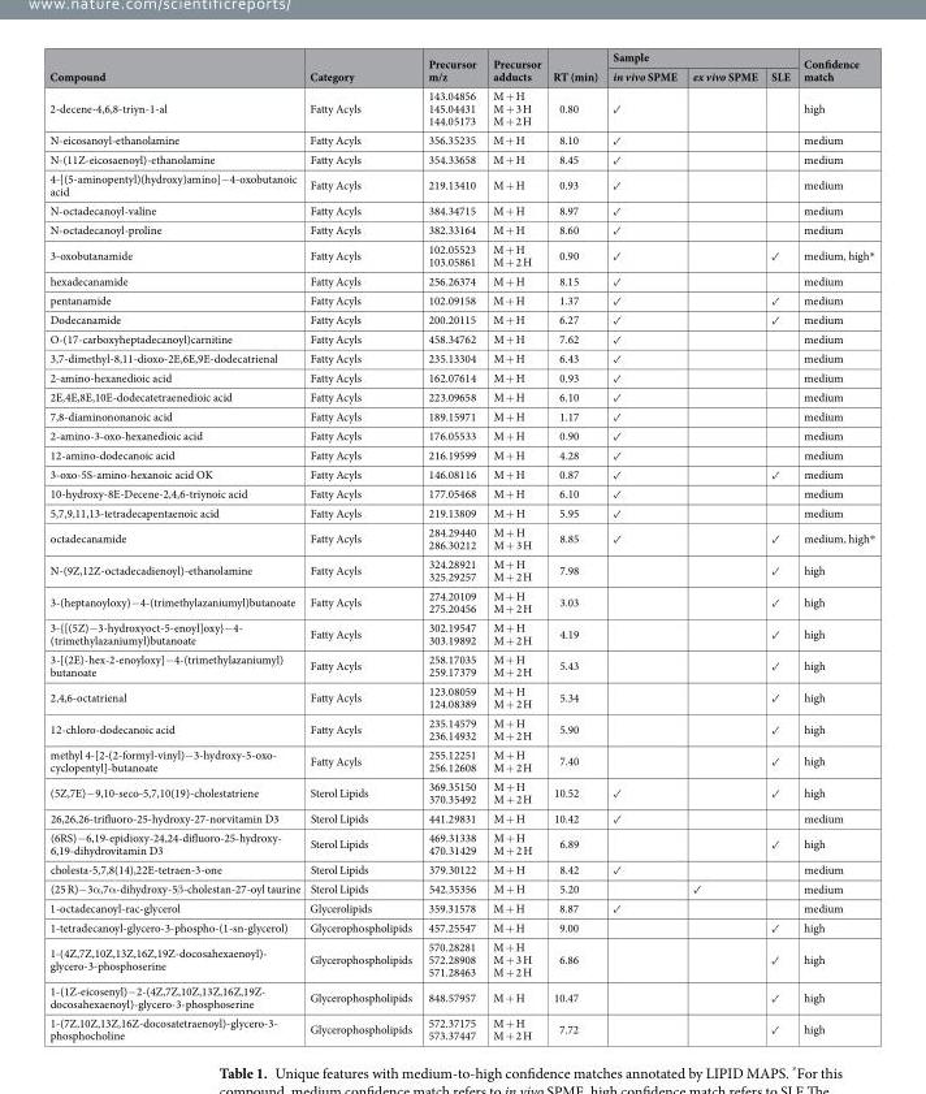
<table><thead><tr><td rowspan="2">Compound</td><td rowspan="2">Category</td><td rowspan="2">Precursor m/z</td><td rowspan="2">Precursor adducts</td><td rowspan="2">RT (min)</td><td colspan="3">Sample</td><td rowspan="2">Confidence match</td></tr><tr><td>in vivo SPME</td><td>ex vivo SPME</td><td>SLE</td></tr></thead><tbody><tr><td>2-decene-4,6,8-triyn-1-al</td><td>Fatty Acyls</td><td>143.04856 145.04431 144.05173</td><td>M + H M + 3 H M + 2 H</td><td>0.80</td><td>✓</td><td></td><td></td><td>high</td></tr><tr><td>N-eicosanoyl-ethanolamine</td><td>Fatty Acyls</td><td>356.35235</td><td>M + H</td><td>8.10</td><td>✓</td><td></td><td></td><td>medium</td></tr><tr><td>N-(11Z-eicosaenoyl)-ethanolamine</td><td>Fatty Acyls</td><td>354.33658</td><td>M + H</td><td>8.45</td><td>✓</td><td></td><td></td><td>medium</td></tr><tr><td>4-[(5-aminopentyl)(hydroxy)amino]−4-oxobutanoic acid</td><td>Fatty Acyls</td><td>219.13410</td><td>M + H</td><td>0.93</td><td>✓</td><td></td><td></td><td>medium</td></tr><tr><td>N-octadecanoyl-valine</td><td>Fatty Acyls</td><td>384.34715</td><td>M + H</td><td>8.97</td><td>✓</td><td></td><td></td><td>medium</td></tr><tr><td>N-octadecanoyl-proline</td><td>Fatty Acyls</td><td>382.33164</td><td>M + H</td><td>8.60</td><td>✓</td><td></td><td></td><td>medium</td></tr><tr><td>3-oxobutanamide</td><td>Fatty Acyls</td><td>102.05523 103.05861</td><td>M + H M + 2 H</td><td>0.90</td><td>✓</td><td></td><td>✓</td><td>medium, high*</td></tr><tr><td>hexadecanamide</td><td>Fatty Acyls</td><td>256.26374</td><td>M + H</td><td>8.15</td><td>✓</td><td></td><td></td><td>medium</td></tr><tr><td>pentanamide</td><td>Fatty Acyls</td><td>102.09158</td><td>M + H</td><td>1.37</td><td>✓</td><td></td><td>✓</td><td>medium</td></tr><tr><td>Dodecanamide</td><td>Fatty Acyls</td><td>200.20115</td><td>M + H</td><td>6.27</td><td>✓</td><td></td><td>✓</td><td>medium</td></tr><tr><td>O-(17-carboxyheptadecanoyl)carnitine</td><td>Fatty Acyls</td><td>458.34762</td><td>M + H</td><td>7.62</td><td>✓</td><td></td><td></td><td>medium</td></tr><tr><td>3,7-dimethyl-8,11-dioxo-2E,6E,9E-dodecatrienal</td><td>Fatty Acyls</td><td>235.13304</td><td>M + H</td><td>6.43</td><td>✓</td><td></td><td></td><td>medium</td></tr><tr><td>2-amino-hexanedioic acid</td><td>Fatty Acyls</td><td>162.07614</td><td>M + H</td><td>0.93</td><td>✓</td><td></td><td></td><td>medium</td></tr><tr><td>2E,4E,8E,10E-dodecatetraenedioic acid</td><td>Fatty Acyls</td><td>223.09658</td><td>M + H</td><td>6.10</td><td>✓</td><td></td><td></td><td>medium</td></tr><tr><td>7,8-diaminononanoic acid</td><td>Fatty Acyls</td><td>189.15971</td><td>M + H</td><td>1.17</td><td>✓</td><td></td><td></td><td>medium</td></tr><tr><td>2-amino-3-oxo-hexanedioic acid</td><td>Fatty Acyls</td><td>176.05533</td><td>M + H</td><td>0.90</td><td>✓</td><td></td><td></td><td>medium</td></tr><tr><td>12-amino-dodecanoic acid</td><td>Fatty Acyls</td><td>216.19599</td><td>M + H</td><td>4.28</td><td>✓</td><td></td><td></td><td>medium</td></tr><tr><td>3-oxo-5S-amino-hexanoic acid OK</td><td>Fatty Acyls</td><td>146.08116</td><td>M + H</td><td>0.87</td><td>✓</td><td></td><td>✓</td><td>medium</td></tr><tr><td>10-hydroxy-8E-Decene-2,4,6-triynoic acid</td><td>Fatty Acyls</td><td>177.05468</td><td>M + H</td><td>6.10</td><td>✓</td><td></td><td></td><td>medium</td></tr><tr><td>5,7,9,11,13-tetradecapentaenoic acid</td><td>Fatty Acyls</td><td>219.13809</td><td>M + H</td><td>5.95</td><td>✓</td><td></td><td></td><td>medium</td></tr><tr><td>octadecanamide</td><td>Fatty Acyls</td><td>284.29440 286.30212</td><td>M + H M + 3 H</td><td>8.85</td><td>✓</td><td></td><td>✓</td><td>medium, high*</td></tr><tr><td>N-(9Z,12Z-octadecadienoyl)-ethanolamine</td><td>Fatty Acyls</td><td>324.28921 325.29257</td><td>M + H M + 2 H</td><td>7.98</td><td></td><td></td><td>✓</td><td>high</td></tr><tr><td>3-(heptanoyloxy)−4-(trimethylazaniumyl)butanoate</td><td>Fatty Acyls</td><td>274.20109 275.20456</td><td>M + H M + 2 H</td><td>3.03</td><td></td><td></td><td>✓</td><td>high</td></tr><tr><td>3-{[(5Z)−3-hydroxyoct-5-enoyl]oxy}−4- (trimethylazaniumyl)butanoate</td><td>Fatty Acyls</td><td>302.19547 303.19892</td><td>M + H M + 2 H</td><td>4.19</td><td></td><td></td><td>✓</td><td>high</td></tr><tr><td>3-[(2E)-hex-2-enoyloxy]−4-(trimethylazaniumyl) butanoate</td><td>Fatty Acyls</td><td>258.17035 259.17379</td><td>M + H M + 2 H</td><td>5.43</td><td></td><td></td><td>✓</td><td>high</td></tr><tr><td>2,4,6-octatrienal</td><td>Fatty Acyls</td><td>123.08059 124.08389</td><td>M + H M + 2 H</td><td>5.34</td><td></td><td></td><td>✓</td><td>high</td></tr><tr><td>12-chloro-dodecanoic acid</td><td>Fatty Acyls</td><td>235.14579 236.14932</td><td>M + H M + 2 H</td><td>5.90</td><td></td><td></td><td>✓</td><td>high</td></tr><tr><td>methyl 4-[2-(2-formyl-vinyl)−3-hydroxy-5-oxo- cyclopentyl]-butanoate</td><td>Fatty Acyls</td><td>255.12251 256.12608</td><td>M + H M + 2 H</td><td>7.40</td><td></td><td></td><td>✓</td><td>high</td></tr><tr><td>(5Z,7E)−9,10-seco-5,7,10(19)-cholestatriene</td><td>Sterol Lipids</td><td>369.35150 370.35492</td><td>M + H M + 2 H</td><td>10.52</td><td>✓</td><td></td><td>✓</td><td>high</td></tr><tr><td>26,26,26-trifluoro-25-hydroxy-27-norvitamin D3</td><td>Sterol Lipids</td><td>441.29831</td><td>M + H</td><td>10.42</td><td>✓</td><td></td><td></td><td>medium</td></tr><tr><td>(6RS)−6,19-epidioxy-24,24-difluoro-25-hydroxy- 6,19-dihydrovitamin D3</td><td>Sterol Lipids</td><td>469.31338 470.31429</td><td>M + H M + 2 H</td><td>6.89</td><td></td><td></td><td>✓</td><td>high</td></tr><tr><td>cholesta-5,7,8(14),22E-tetraen-3-one</td><td>Sterol Lipids</td><td>379.30122</td><td>M + H</td><td>8.42</td><td>✓</td><td></td><td></td><td>medium</td></tr><tr><td>(25 R)−3α,7α-dihydroxy-5β-cholestan-27-oyl taurine</td><td>Sterol Lipids</td><td>542.35356</td><td>M + H</td><td>5.20</td><td></td><td>✓</td><td></td><td>medium</td></tr><tr><td>1-octadecanoyl-rac-glycerol</td><td>Glycerolipids</td><td>359.31578</td><td>M + H</td><td>8.87</td><td>✓</td><td></td><td></td><td>medium</td></tr><tr><td>1-tetradecanoyl-glycero-3-phospho-(1-sn-glycerol)</td><td>Glycerophospholipids</td><td>457.25547</td><td>M + H</td><td>9.00</td><td></td><td></td><td>✓</td><td>high</td></tr><tr><td>1-(4Z,7Z,10Z,13Z,16Z,19Z-docosahexaenoyl)- glycero-3-phosphoserine</td><td>Glycerophospholipids</td><td>570.28281 572.28908 571.28463</td><td>M + H M + 3 H M + 2 H</td><td>6.86</td><td></td><td></td><td>✓</td><td>high</td></tr><tr><td>1-(1Z-eicosenyl)−2-(4Z,7Z,10Z,13Z,16Z,19Z- docosahexaenoyl)-glycero-3-phosphoserine</td><td>Glycerophospholipids</td><td>848.57957</td><td>M + H</td><td>10.47</td><td></td><td></td><td>✓</td><td>high</td></tr><tr><td>1-(7Z,10Z,13Z,16Z-docosatetraenoyl)-glycero-3- phosphocholine</td><td>Glycerophospholipids</td><td>572.37175 573.37447</td><td>M + H M + 2 H</td><td>7.72</td><td></td><td></td><td>✓</td><td>high</td></tr></tbody></table>